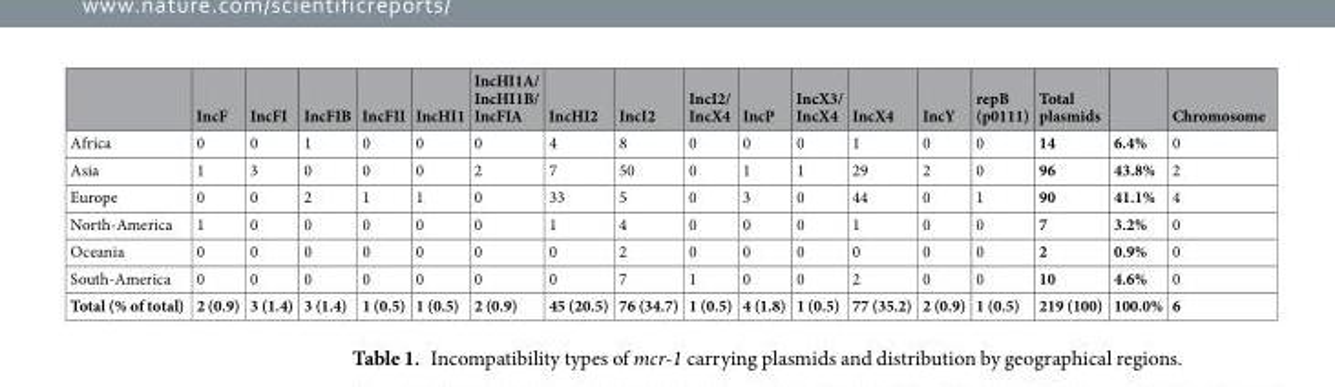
<table><thead><tr><td></td><td>IncF</td><td>IncFI</td><td>IncFIB</td><td>IncFII</td><td>IncHI1</td><td>IncHI1A/ IncHI1B/ IncFIA</td><td>IncHI2</td><td>IncI2</td><td>IncI2/ IncX4</td><td>IncP</td><td>IncX3/ IncX4</td><td>IncX4</td><td>IncY</td><td>repB (p0111)</td><td>Total plasmids</td><td></td><td>Chromosome</td></tr></thead><tbody><tr><td>Africa</td><td>0</td><td>0</td><td>1</td><td>0</td><td>0</td><td>0</td><td>4</td><td>8</td><td>0</td><td>0</td><td>0</td><td>1</td><td>0</td><td>0</td><td>14</td><td>6.4%</td><td>0</td></tr><tr><td>Asia</td><td>1</td><td>3</td><td>0</td><td>0</td><td>0</td><td>2</td><td>7</td><td>50</td><td>0</td><td>1</td><td>1</td><td>29</td><td>2</td><td>0</td><td>96</td><td>43.8%</td><td>2</td></tr><tr><td>Europe</td><td>0</td><td>0</td><td>2</td><td>1</td><td>1</td><td>0</td><td>33</td><td>5</td><td>0</td><td>3</td><td>0</td><td>44</td><td>0</td><td>1</td><td>90</td><td>41.1%</td><td>4</td></tr><tr><td>North-America</td><td>1</td><td>0</td><td>0</td><td>0</td><td>0</td><td>0</td><td>1</td><td>4</td><td>0</td><td>0</td><td>0</td><td>1</td><td>0</td><td>0</td><td>7</td><td>3.2%</td><td>0</td></tr><tr><td>Oceania</td><td>0</td><td>0</td><td>0</td><td>0</td><td>0</td><td>0</td><td>0</td><td>2</td><td>0</td><td>0</td><td>0</td><td>0</td><td>0</td><td>0</td><td>2</td><td>0.9%</td><td>0</td></tr><tr><td>South-America</td><td>0</td><td>0</td><td>0</td><td>0</td><td>0</td><td>0</td><td>0</td><td>7</td><td>1</td><td>0</td><td>0</td><td>2</td><td>0</td><td>0</td><td>10</td><td>4.6%</td><td>0</td></tr><tr><td>Total (% of total)</td><td>2 (0.9)</td><td>3 (1.4)</td><td>3 (1.4)</td><td>1 (0.5)</td><td>1 (0.5)</td><td>2 (0.9)</td><td>45 (20.5)</td><td>76 (34.7)</td><td>1 (0.5)</td><td>4 (1.8)</td><td>1 (0.5)</td><td>77 (35.2)</td><td>2 (0.9)</td><td>1 (0.5)</td><td>219 (100)</td><td>100.0%</td><td>6</td></tr></tbody></table>